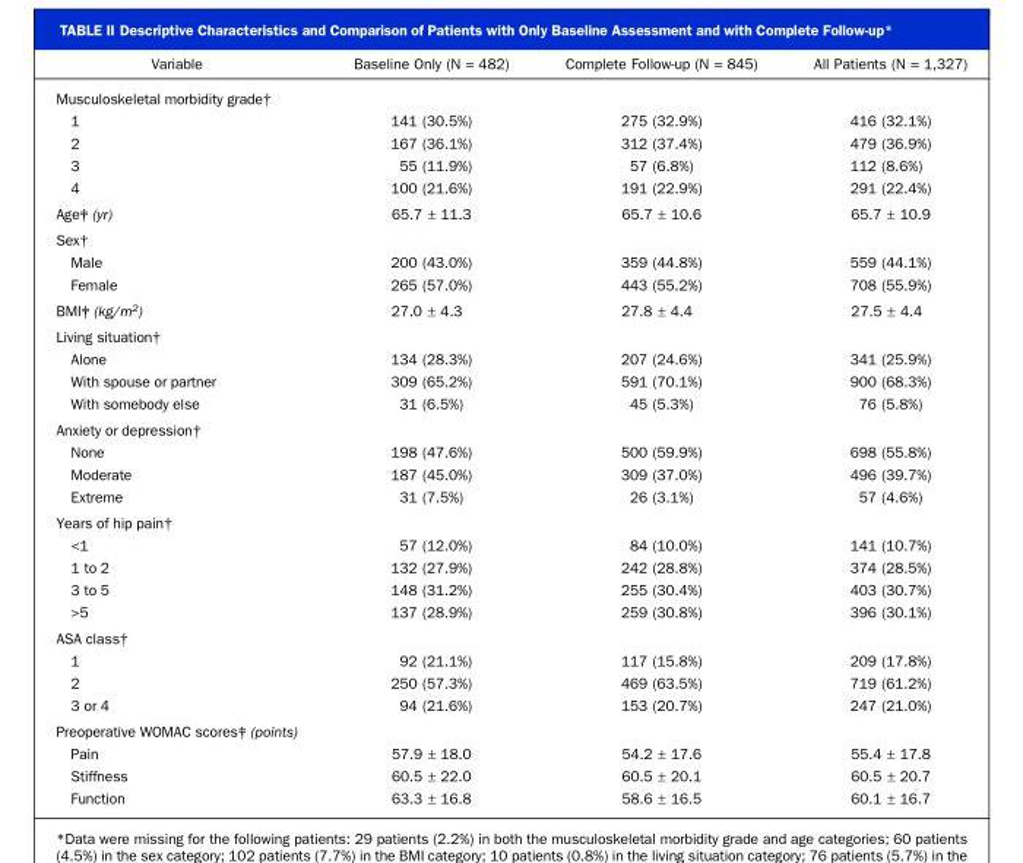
<table><thead><tr><td>Variable</td><td>Baseline Only (N = 482)</td><td>Complete Follow-up (N = 845)</td><td>All Patients (N = 1,327)</td></tr></thead><tbody><tr><td colspan="4">Musculoskeletal morbidity grade†</td></tr><tr><td>1</td><td>141 (30.5%)</td><td>275 (32.9%)</td><td>416 (32.1%)</td></tr><tr><td>2</td><td>167 (36.1%)</td><td>312 (37.4%)</td><td>479 (36.9%)</td></tr><tr><td>3</td><td>55 (11.9%)</td><td>57 (6.8%)</td><td>112 (8.6%)</td></tr><tr><td>4</td><td>100 (21.6%)</td><td>191 (22.9%)</td><td>291 (22.4%)</td></tr><tr><td>Age‡ (yr)</td><td>65.7 ± 11.3</td><td>65.7 ± 10.6</td><td>65.7 ± 10.9</td></tr><tr><td colspan="4">Sex†</td></tr><tr><td>Male</td><td>200 (43.0%)</td><td>359 (44.8%)</td><td>559 (44.1%)</td></tr><tr><td>Female</td><td>265 (57.0%)</td><td>443 (55.2%)</td><td>708 (55.9%)</td></tr><tr><td>BMI‡ (kg/m<sup>2</sup>)</td><td>27.0 ± 4.3</td><td>27.8 ± 4.4</td><td>27.5 ± 4.4</td></tr><tr><td colspan="4">Living situation†</td></tr><tr><td>Alone</td><td>134 (28.3%)</td><td>207 (24.6%)</td><td>341 (25.9%)</td></tr><tr><td>With spouse or partner</td><td>309 (65.2%)</td><td>591 (70.1%)</td><td>900 (68.3%)</td></tr><tr><td>With somebody else</td><td>31 (6.5%)</td><td>45 (5.3%)</td><td>76 (5.8%)</td></tr><tr><td colspan="4">Anxiety or depression†</td></tr><tr><td>None</td><td>198 (47.6%)</td><td>500 (59.9%)</td><td>698 (55.8%)</td></tr><tr><td>Moderate</td><td>187 (45.0%)</td><td>309 (37.0%)</td><td>496 (39.7%)</td></tr><tr><td>Extreme</td><td>31 (7.5%)</td><td>26 (3.1%)</td><td>57 (4.6%)</td></tr><tr><td colspan="4">Years of hip pain†</td></tr><tr><td>&lt;1</td><td>57 (12.0%)</td><td>84 (10.0%)</td><td>141 (10.7%)</td></tr><tr><td>1 to 2</td><td>132 (27.9%)</td><td>242 (28.8%)</td><td>374 (28.5%)</td></tr><tr><td>3 to 5</td><td>148 (31.2%)</td><td>255 (30.4%)</td><td>403 (30.7%)</td></tr><tr><td>&gt;5</td><td>137 (28.9%)</td><td>259 (30.8%)</td><td>396 (30.1%)</td></tr><tr><td colspan="4">ASA class†</td></tr><tr><td>1</td><td>92 (21.1%)</td><td>117 (15.8%)</td><td>209 (17.8%)</td></tr><tr><td>2</td><td>250 (57.3%)</td><td>469 (63.5%)</td><td>719 (61.2%)</td></tr><tr><td>3 or 4</td><td>94 (21.6%)</td><td>153 (20.7%)</td><td>247 (21.0%)</td></tr><tr><td colspan="4">Preoperative WOMAC scores‡ (points)</td></tr><tr><td>Pain</td><td>57.9 ± 18.0</td><td>54.2 ± 17.6</td><td>55.4 ± 17.8</td></tr><tr><td>Stiffness</td><td>60.5 ± 22.0</td><td>60.5 ± 20.1</td><td>60.5 ± 20.7</td></tr><tr><td>Function</td><td>63.3 ± 16.8</td><td>58.6 ± 16.5</td><td>60.1 ± 16.7</td></tr></tbody></table>